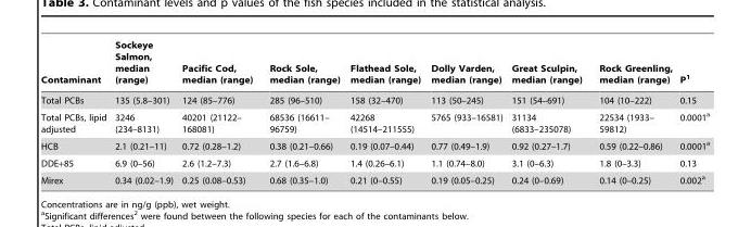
<table><thead><tr><td>Contaminant</td><td>Sockeye Salmon, median (range)</td><td>Pacific Cod, median (range)</td><td>Rock Sole, median (range)</td><td>Flathead Sole, median (range)</td><td>Dolly Varden, median (range)</td><td>Great Sculpin, median (range)</td><td>Rock Greenling, median (range)</td><td>P<sup>1</sup></td></tr></thead><tbody><tr><td>Total PCBs</td><td>135 (5.8–301)</td><td>124 (85–776)</td><td>285 (96–510)</td><td>158 (32–470)</td><td>113 (50–245)</td><td>151 (54–691)</td><td>104 (10–222)</td><td>0.15</td></tr><tr><td>Total PCBs, lipid adjusted</td><td>3246 (234–8131)</td><td>40201 (21122– 168081)</td><td>68536 (16611– 96759)</td><td>42268 (14514–211555)</td><td>5765 (933–16581)</td><td>31134 (6833–235078)</td><td>22534 (1933– 59812)</td><td>0.0001<sup>a</sup></td></tr><tr><td>HCB</td><td>2.1 (0.21–11)</td><td>0.72 (0.28–1.2)</td><td>0.38 (0.21–0.66)</td><td>0.19 (0.07–0.44)</td><td>0.77 (0.49–1.9)</td><td>0.92 (0.27–1.7)</td><td>0.59 (0.22–0.86)</td><td>0.0001<sup>a</sup></td></tr><tr><td>DDE+85</td><td>6.9 (0–56)</td><td>2.6 (1.2–7.3)</td><td>2.7 (1.6–6.8)</td><td>1.4 (0.26–6.1)</td><td>1.1 (0.74–8.0)</td><td>3.1 (0–6.3)</td><td>1.8 (0–3.3)</td><td>0.13</td></tr><tr><td>Mirex</td><td>0.34 (0.02–1.9)</td><td>0.25 (0.08–0.53)</td><td>0.68 (0.35–1.0)</td><td>0.21 (0–0.55)</td><td>0.19 (0.05–0.25)</td><td>0.24 (0–0.69)</td><td>0.14 (0–0.25)</td><td>0.002<sup>a</sup></td></tr></tbody></table>